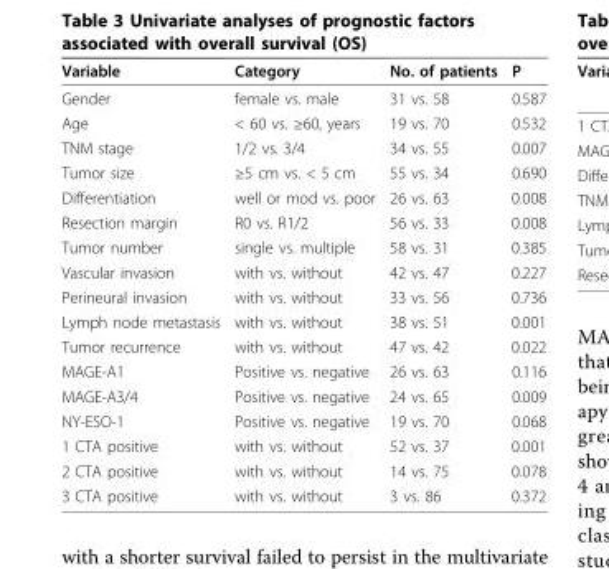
<table><thead><tr><td>Variable</td><td>Category</td><td>No. of patients</td><td>P</td></tr></thead><tbody><tr><td>Gender</td><td>female vs. male</td><td>31 vs. 58</td><td>0.587</td></tr><tr><td>Age</td><td>&lt; 60 vs. ≥60, years</td><td>19 vs. 70</td><td>0.532</td></tr><tr><td>TNM stage</td><td>1/2 vs. 3/4</td><td>34 vs. 55</td><td>0.007</td></tr><tr><td>Tumor size</td><td>≥5 cm vs. &lt; 5 cm</td><td>55 vs. 34</td><td>0.690</td></tr><tr><td>Differentiation</td><td>well or mod vs. poor</td><td>26 vs. 63</td><td>0.008</td></tr><tr><td>Resection margin</td><td>R0 vs. R1/2</td><td>56 vs. 33</td><td>0.008</td></tr><tr><td>Tumor number</td><td>single vs. multiple</td><td>58 vs. 31</td><td>0.385</td></tr><tr><td>Vascular invasion</td><td>with vs. without</td><td>42 vs. 47</td><td>0.227</td></tr><tr><td>Perineural invasion</td><td>with vs. without</td><td>33 vs. 56</td><td>0.736</td></tr><tr><td>Lymph node metastasis</td><td>with vs. without</td><td>38 vs. 51</td><td>0.001</td></tr><tr><td>Tumor recurrence</td><td>with vs. without</td><td>47 vs. 42</td><td>0.022</td></tr><tr><td>MAGE-A1</td><td>Positive vs. negative</td><td>26 vs. 63</td><td>0.116</td></tr><tr><td>MAGE-A3/4</td><td>Positive vs. negative</td><td>24 vs. 65</td><td>0.009</td></tr><tr><td>NY-ESO-1</td><td>Positive vs. negative</td><td>19 vs. 70</td><td>0.068</td></tr><tr><td>1 CTA positive</td><td>with vs. without</td><td>52 vs. 37</td><td>0.001</td></tr><tr><td>2 CTA positive</td><td>with vs. without</td><td>14 vs. 75</td><td>0.078</td></tr><tr><td>3 CTA positive</td><td>with vs. without</td><td>3 vs. 86</td><td>0.372</td></tr></tbody></table>